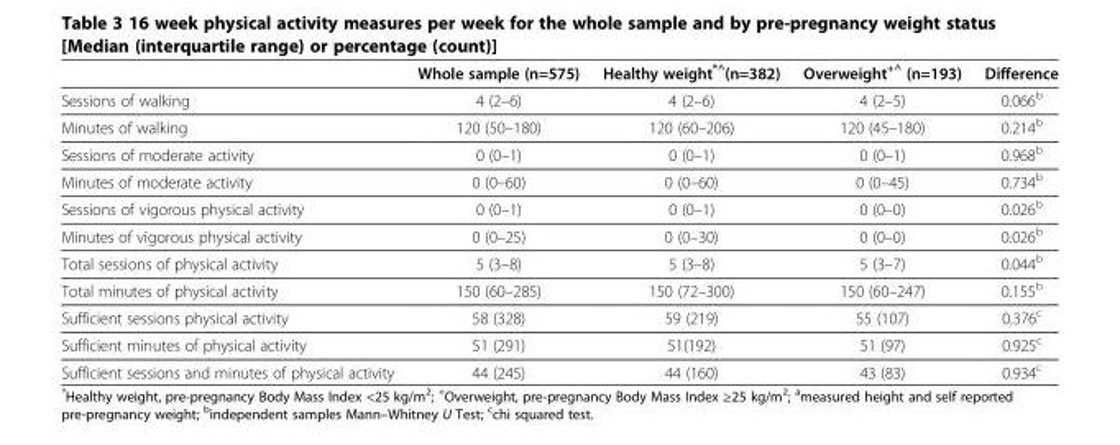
<table><thead><tr><td></td><td>Whole sample (n=575)</td><td>Healthy weight<sup>*^</sup>(n=382)</td><td>Overweight<sup>+^</sup> (n=193)</td><td>Difference</td></tr></thead><tbody><tr><td>Sessions of walking</td><td>4 (2–6)</td><td>4 (2–6)</td><td>4 (2–5)</td><td>0.066<sup>b</sup></td></tr><tr><td>Minutes of walking</td><td>120 (50–180)</td><td>120 (60–206)</td><td>120 (45–180)</td><td>0.214<sup>b</sup></td></tr><tr><td>Sessions of moderate activity</td><td>0 (0–1)</td><td>0 (0–1)</td><td>0 (0–1)</td><td>0.968<sup>b</sup></td></tr><tr><td>Minutes of moderate activity</td><td>0 (0–60)</td><td>0 (0–60)</td><td>0 (0–45)</td><td>0.734<sup>b</sup></td></tr><tr><td>Sessions of vigorous physical activity</td><td>0 (0–1)</td><td>0 (0–1)</td><td>0 (0–0)</td><td>0.026<sup>b</sup></td></tr><tr><td>Minutes of vigorous physical activity</td><td>0 (0–25)</td><td>0 (0–30)</td><td>0 (0–0)</td><td>0.026<sup>b</sup></td></tr><tr><td>Total sessions of physical activity</td><td>5 (3–8)</td><td>5 (3–8)</td><td>5 (3–7)</td><td>0.044<sup>b</sup></td></tr><tr><td>Total minutes of physical activity</td><td>150 (60–285)</td><td>150 (72–300)</td><td>150 (60–247)</td><td>0.155<sup>b</sup></td></tr><tr><td>Sufficient sessions physical activity</td><td>58 (328)</td><td>59 (219)</td><td>55 (107)</td><td>0.376<sup>c</sup></td></tr><tr><td>Sufficient minutes of physical activity</td><td>51 (291)</td><td>51(192)</td><td>51 (97)</td><td>0.925<sup>c</sup></td></tr><tr><td>Sufficient sessions and minutes of physical activity</td><td>44 (245)</td><td>44 (160)</td><td>43 (83)</td><td>0.934<sup>c</sup></td></tr></tbody></table>